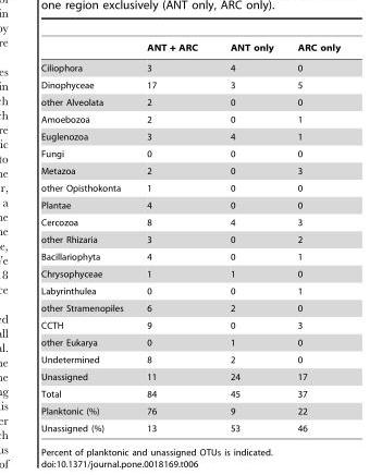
<table><thead><tr><td></td><td>ANT + ARC</td><td>ANT only</td><td>ARC only</td></tr></thead><tbody><tr><td>Ciliophora</td><td>3</td><td>4</td><td>0</td></tr><tr><td>Dinophyceae</td><td>17</td><td>3</td><td>5</td></tr><tr><td>other Alveolata</td><td>2</td><td>0</td><td>0</td></tr><tr><td>Amoebozoa</td><td>2</td><td>0</td><td>1</td></tr><tr><td>Euglenozoa</td><td>3</td><td>4</td><td>1</td></tr><tr><td>Fungi</td><td>0</td><td>0</td><td>0</td></tr><tr><td>Metazoa</td><td>2</td><td>0</td><td>3</td></tr><tr><td>other Opisthokonta</td><td>1</td><td>0</td><td>0</td></tr><tr><td>Plantae</td><td>4</td><td>0</td><td>0</td></tr><tr><td>Cercozoa</td><td>8</td><td>4</td><td>3</td></tr><tr><td>other Rhizaria</td><td>3</td><td>0</td><td>2</td></tr><tr><td>Bacillariophyta</td><td>4</td><td>0</td><td>1</td></tr><tr><td>Chrysophyceae</td><td>1</td><td>1</td><td>0</td></tr><tr><td>Labyrinthulea</td><td>0</td><td>0</td><td>1</td></tr><tr><td>other Stramenopiles</td><td>6</td><td>2</td><td>0</td></tr><tr><td>CCTH</td><td>9</td><td>0</td><td>3</td></tr><tr><td>other Eukarya</td><td>0</td><td>1</td><td>0</td></tr><tr><td>Undetermined</td><td>8</td><td>2</td><td>0</td></tr><tr><td>Unassigned</td><td>11</td><td>24</td><td>17</td></tr><tr><td>Total</td><td>84</td><td>45</td><td>37</td></tr><tr><td>Planktonic (%)</td><td>76</td><td>9</td><td>22</td></tr><tr><td>Unassigned (%)</td><td>13</td><td>53</td><td>46</td></tr></tbody></table>